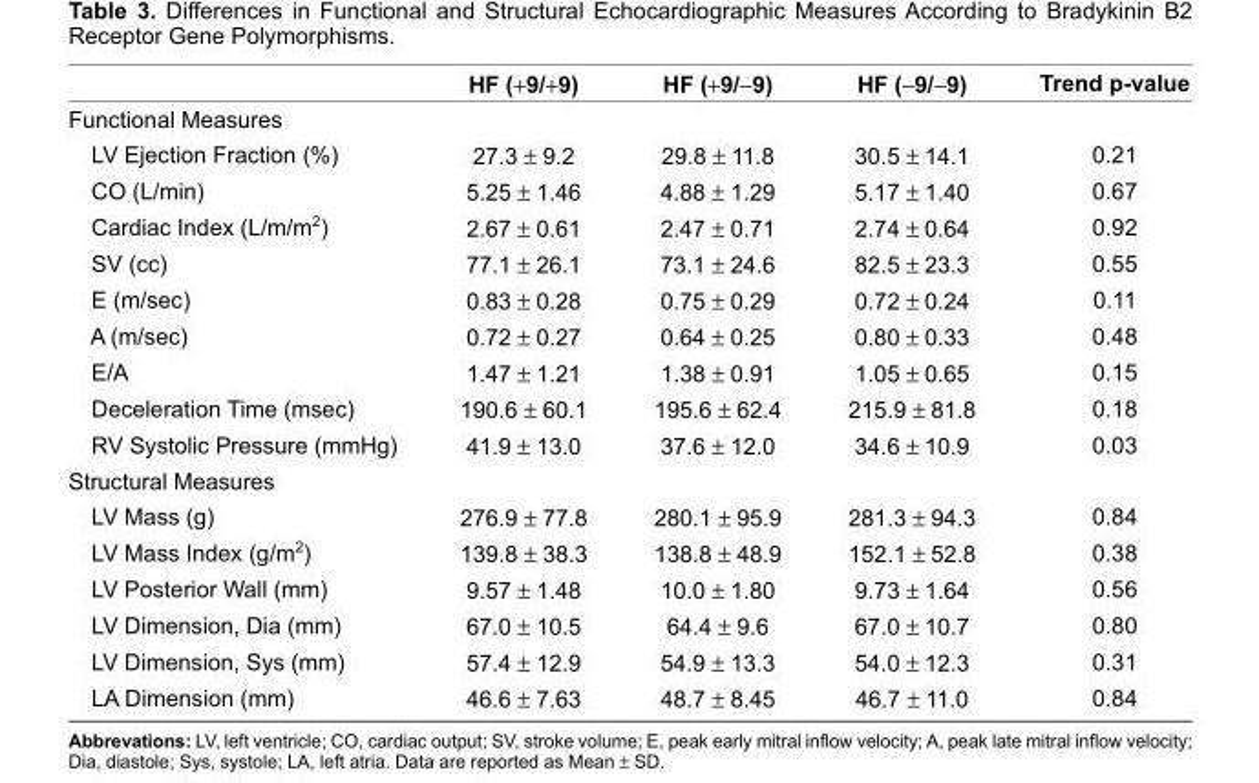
<table><thead><tr><td></td><td>HF (+9/+9)</td><td>HF (+9/−9)</td><td>HF (−9/−9)</td><td>Trend p-value</td></tr></thead><tbody><tr><td colspan="5">Functional Measures</td></tr><tr><td>LV Ejection Fraction (%)</td><td>27.3 ± 9.2</td><td>29.8 ± 11.8</td><td>30.5 ± 14.1</td><td>0.21</td></tr><tr><td>CO (L/min)</td><td>5.25 ± 1.46</td><td>4.88 ± 1.29</td><td>5.17 ± 1.40</td><td>0.67</td></tr><tr><td>Cardiac Index (L/m/m<sup>2</sup>)</td><td>2.67 ± 0.61</td><td>2.47 ± 0.71</td><td>2.74 ± 0.64</td><td>0.92</td></tr><tr><td>SV (cc)</td><td>77.1 ± 26.1</td><td>73.1 ± 24.6</td><td>82.5 ± 23.3</td><td>0.55</td></tr><tr><td>E (m/sec)</td><td>0.83 ± 0.28</td><td>0.75 ± 0.29</td><td>0.72 ± 0.24</td><td>0.11</td></tr><tr><td>A (m/sec)</td><td>0.72 ± 0.27</td><td>0.64 ± 0.25</td><td>0.80 ± 0.33</td><td>0.48</td></tr><tr><td>E/A</td><td>1.47 ± 1.21</td><td>1.38 ± 0.91</td><td>1.05 ± 0.65</td><td>0.15</td></tr><tr><td>Deceleration Time (msec)</td><td>190.6 ± 60.1</td><td>195.6 ± 62.4</td><td>215.9 ± 81.8</td><td>0.18</td></tr><tr><td>RV Systolic Pressure (mmHg)</td><td>41.9 ± 13.0</td><td>37.6 ± 12.0</td><td>34.6 ± 10.9</td><td>0.03</td></tr><tr><td colspan="5">Structural Measures</td></tr><tr><td>LV Mass (g)</td><td>276.9 ± 77.8</td><td>280.1 ± 95.9</td><td>281.3 ± 94.3</td><td>0.84</td></tr><tr><td>LV Mass Index (g/m<sup>2</sup>)</td><td>139.8 ± 38.3</td><td>138.8 ± 48.9</td><td>152.1 ± 52.8</td><td>0.38</td></tr><tr><td>LV Posterior Wall (mm)</td><td>9.57 ± 1.48</td><td>10.0 ± 1.80</td><td>9.73 ± 1.64</td><td>0.56</td></tr><tr><td>LV Dimension, Dia (mm)</td><td>67.0 ± 10.5</td><td>64.4 ± 9.6</td><td>67.0 ± 10.7</td><td>0.80</td></tr><tr><td>LV Dimension, Sys (mm)</td><td>57.4 ± 12.9</td><td>54.9 ± 13.3</td><td>54.0 ± 12.3</td><td>0.31</td></tr><tr><td>LA Dimension (mm)</td><td>46.6 ± 7.63</td><td>48.7 ± 8.45</td><td>46.7 ± 11.0</td><td>0.84</td></tr></tbody></table>